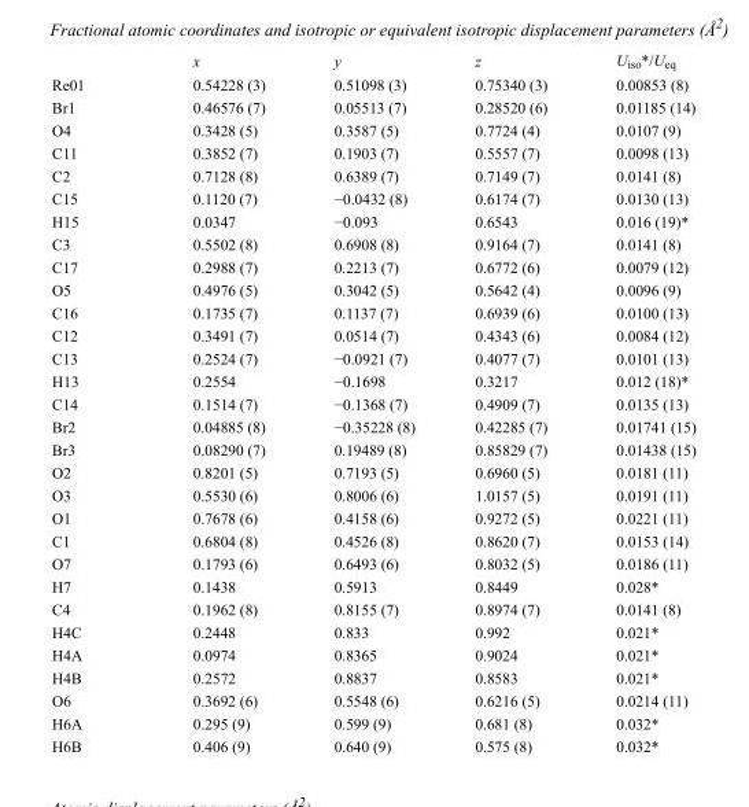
<table><thead><tr><td></td><td>x</td><td>y</td><td>z</td><td>U<sub>iso</sub>*/U<sub>eq</sub></td></tr></thead><tbody><tr><td>Re01</td><td>0.54228 (3)</td><td>0.51098 (3)</td><td>0.75340 (3)</td><td>0.00853 (8)</td></tr><tr><td>Br1</td><td>0.46576 (7)</td><td>0.05513 (7)</td><td>0.28520 (6)</td><td>0.01185 (14)</td></tr><tr><td>O4</td><td>0.3428 (5)</td><td>0.3587 (5)</td><td>0.7724 (4)</td><td>0.0107 (9)</td></tr><tr><td>C11</td><td>0.3852 (7)</td><td>0.1903 (7)</td><td>0.5557 (7)</td><td>0.0098 (13)</td></tr><tr><td>C2</td><td>0.7128 (8)</td><td>0.6389 (7)</td><td>0.7149 (7)</td><td>0.0141 (8)</td></tr><tr><td>C15</td><td>0.1120 (7)</td><td>−0.0432 (8)</td><td>0.6174 (7)</td><td>0.0130 (13)</td></tr><tr><td>H15</td><td>0.0347</td><td>−0.093</td><td>0.6543</td><td>0.016 (19)*</td></tr><tr><td>C3</td><td>0.5502 (8)</td><td>0.6908 (8)</td><td>0.9164 (7)</td><td>0.0141 (8)</td></tr><tr><td>C17</td><td>0.2988 (7)</td><td>0.2213 (7)</td><td>0.6772 (6)</td><td>0.0079 (12)</td></tr><tr><td>O5</td><td>0.4976 (5)</td><td>0.3042 (5)</td><td>0.5642 (4)</td><td>0.0096 (9)</td></tr><tr><td>C16</td><td>0.1735 (7)</td><td>0.1137 (7)</td><td>0.6939 (6)</td><td>0.0100 (13)</td></tr><tr><td>C12</td><td>0.3491 (7)</td><td>0.0514 (7)</td><td>0.4343 (6)</td><td>0.0084 (12)</td></tr><tr><td>C13</td><td>0.2524 (7)</td><td>−0.0921 (7)</td><td>0.4077 (7)</td><td>0.0101 (13)</td></tr><tr><td>H13</td><td>0.2554</td><td>−0.1698</td><td>0.3217</td><td>0.012 (18)*</td></tr><tr><td>C14</td><td>0.1514 (7)</td><td>−0.1368 (7)</td><td>0.4909 (7)</td><td>0.0135 (13)</td></tr><tr><td>Br2</td><td>0.04885 (8)</td><td>−0.35228 (8)</td><td>0.42285 (7)</td><td>0.01741 (15)</td></tr><tr><td>Br3</td><td>0.08290 (7)</td><td>0.19489 (8)</td><td>0.85829 (7)</td><td>0.01438 (15)</td></tr><tr><td>O2</td><td>0.8201 (5)</td><td>0.7193 (5)</td><td>0.6960 (5)</td><td>0.0181 (11)</td></tr><tr><td>O3</td><td>0.5530 (6)</td><td>0.8006 (6)</td><td>1.0157 (5)</td><td>0.0191 (11)</td></tr><tr><td>O1</td><td>0.7678 (6)</td><td>0.4158 (6)</td><td>0.9272 (5)</td><td>0.0221 (11)</td></tr><tr><td>C1</td><td>0.6804 (8)</td><td>0.4526 (8)</td><td>0.8620 (7)</td><td>0.0153 (14)</td></tr><tr><td>O7</td><td>0.1793 (6)</td><td>0.6493 (6)</td><td>0.8032 (5)</td><td>0.0186 (11)</td></tr><tr><td>H7</td><td>0.1438</td><td>0.5913</td><td>0.8449</td><td>0.028*</td></tr><tr><td>C4</td><td>0.1962 (8)</td><td>0.8155 (7)</td><td>0.8974 (7)</td><td>0.0141 (8)</td></tr><tr><td>H4C</td><td>0.2448</td><td>0.833</td><td>0.992</td><td>0.021*</td></tr><tr><td>H4A</td><td>0.0974</td><td>0.8365</td><td>0.9024</td><td>0.021*</td></tr><tr><td>H4B</td><td>0.2572</td><td>0.8837</td><td>0.8583</td><td>0.021*</td></tr><tr><td>O6</td><td>0.3692 (6)</td><td>0.5548 (6)</td><td>0.6216 (5)</td><td>0.0214 (11)</td></tr><tr><td>H6A</td><td>0.295 (9)</td><td>0.599 (9)</td><td>0.681 (8)</td><td>0.032*</td></tr><tr><td>H6B</td><td>0.406 (9)</td><td>0.640 (9)</td><td>0.575 (8)</td><td>0.032*</td></tr></tbody></table>